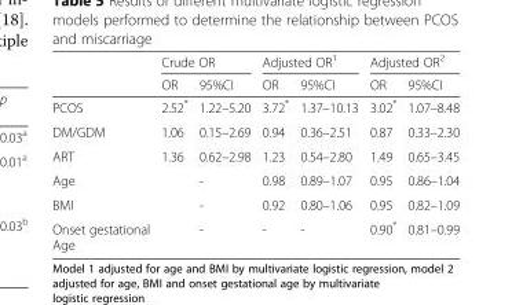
<table><thead><tr><td rowspan="2"></td><td colspan="2">Crude OR</td><td colspan="2">Adjusted OR<sup>1</sup></td><td colspan="2">Adjusted OR<sup>2</sup></td></tr><tr><td>OR</td><td>95%CI</td><td>OR</td><td>95%CI</td><td>OR</td><td>95%CI</td></tr></thead><tbody><tr><td>PCOS</td><td>2.52*</td><td>1.22–5.20</td><td>3.72*</td><td>1.37–10.13</td><td>3.02*</td><td>1.07–8.48</td></tr><tr><td>DM/GDM</td><td>1.06</td><td>0.15–2.69</td><td>0.94</td><td>0.36–2.51</td><td>0.87</td><td>0.33–2.30</td></tr><tr><td>ART</td><td>1.36</td><td>0.62–2.98</td><td>1.23</td><td>0.54–2.80</td><td>1.49</td><td>0.65–3.45</td></tr><tr><td>Age</td><td></td><td>-</td><td>0.98</td><td>0.89–1.07</td><td>0.95</td><td>0.86–1.04</td></tr><tr><td>BMI</td><td></td><td>-</td><td>0.92</td><td>0.80–1.06</td><td>0.95</td><td>0.82–1.09</td></tr><tr><td>Onset gestational Age</td><td></td><td>-</td><td>-</td><td>-</td><td>0.90*</td><td>0.81–0.99</td></tr></tbody></table>